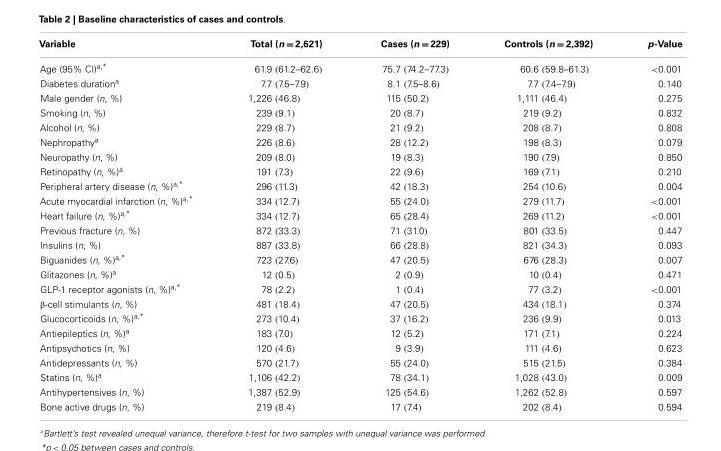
<table><thead><tr><td>Variable</td><td>Total (n = 2,621)</td><td>Cases (n = 229)</td><td>Controls (n = 2,392)</td><td>p-Value</td></tr></thead><tbody><tr><td>Age (95% CI)<sup>a,</sup>*</td><td>61.9 (61.2–62.6)</td><td>75.7 (74.2–77.3)</td><td>60.6 (59.8–61.3)</td><td>&lt;0.001</td></tr><tr><td>Diabetes duration<sup>a</sup></td><td>7.7 (7.5–7.9)</td><td>8.1 (7.5–8.6)</td><td>7.7 (7.4–7.9)</td><td>0.140</td></tr><tr><td>Male gender (n, %)</td><td>1,226 (46.8)</td><td>115 (50.2)</td><td>1,111 (46.4)</td><td>0.275</td></tr><tr><td>Smoking (n, %)</td><td>239 (9.1)</td><td>20 (8.7)</td><td>219 (9.2)</td><td>0.832</td></tr><tr><td>Alcohol (n, %)</td><td>229 (8.7)</td><td>21 (9.2)</td><td>208 (8.7)</td><td>0.808</td></tr><tr><td>Nephropathy<sup>a</sup></td><td>226 (8.6)</td><td>28 (12.2)</td><td>198 (8.3)</td><td>0.079</td></tr><tr><td>Neuropathy (n, %)</td><td>209 (8.0)</td><td>19 (8.3)</td><td>190 (7.9)</td><td>0.850</td></tr><tr><td>Retinopathy (n, %)<sup>a</sup></td><td>191 (7.3)</td><td>22 (9.6)</td><td>169 (7.1)</td><td>0.210</td></tr><tr><td>Peripheral artery disease (n, %)<sup>a,</sup>*</td><td>296 (11.3)</td><td>42 (18.3)</td><td>254 (10.6)</td><td>0.004</td></tr><tr><td>Acute myocardial infarction (n, %)<sup>a,</sup>*</td><td>334 (12.7)</td><td>55 (24.0)</td><td>279 (11.7)</td><td>&lt;0.001</td></tr><tr><td>Heart failure (n, %)<sup>a,</sup>*</td><td>334 (12.7)</td><td>65 (28.4)</td><td>269 (11.2)</td><td>&lt;0.001</td></tr><tr><td>Previous fracture (n, %)</td><td>872 (33.3)</td><td>71 (31.0)</td><td>801 (33.5)</td><td>0.447</td></tr><tr><td>Insulins (n, %)</td><td>887 (33.8)</td><td>66 (28.8)</td><td>821 (34.3)</td><td>0.093</td></tr><tr><td>Biguanides (n, %)<sup>a,</sup>*</td><td>723 (27.6)</td><td>47 (20.5)</td><td>676 (28.3)</td><td>0.007</td></tr><tr><td>Glitazones (n, %)<sup>a</sup></td><td>12 (0.5)</td><td>2 (0.9)</td><td>10 (0.4)</td><td>0.471</td></tr><tr><td>GLP-1 receptor agonists (n, %)<sup>a,</sup>*</td><td>78 (2.2)</td><td>1 (0.4)</td><td>77 (3.2)</td><td>&lt;0.001</td></tr><tr><td>β-cell stimulants (n, %)</td><td>481 (18.4)</td><td>47 (20.5)</td><td>434 (18.1)</td><td>0.374</td></tr><tr><td>Glucocorticoids (n, %)<sup>a,</sup>*</td><td>273 (10.4)</td><td>37 (16.2)</td><td>236 (9.9)</td><td>0.013</td></tr><tr><td>Antiepileptics (n, %)<sup>a</sup></td><td>183 (7.0)</td><td>12 (5.2)</td><td>171 (7.1)</td><td>0.224</td></tr><tr><td>Antipsychotics (n, %)</td><td>120 (4.6)</td><td>9 (3.9)</td><td>111 (4.6)</td><td>0.623</td></tr><tr><td>Antidepressants (n, %)</td><td>570 (21.7)</td><td>55 (24.0)</td><td>515 (21.5)</td><td>0.384</td></tr><tr><td>Statins (n, %)<sup>a</sup></td><td>1,106 (42.2)</td><td>78 (34.1)</td><td>1,028 (43.0)</td><td>0.009</td></tr><tr><td>Antihypertensives (n, %)</td><td>1,387 (52.9)</td><td>125 (54.6)</td><td>1,262 (52.8)</td><td>0.597</td></tr><tr><td>Bone active drugs (n, %)</td><td>219 (8.4)</td><td>17 (7.4)</td><td>202 (8.4)</td><td>0.594</td></tr></tbody></table>